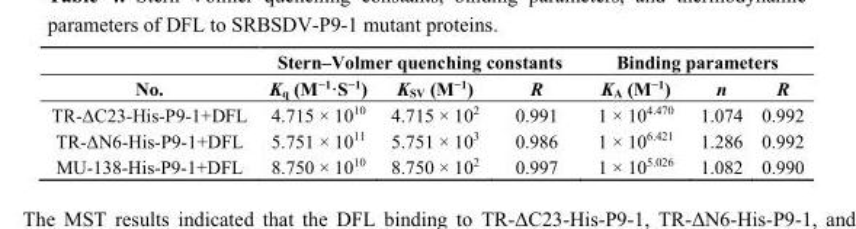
<table><thead><tr><td rowspan="2">No.</td><td colspan="3">Stern–Volmer quenching constants</td><td colspan="3">Binding parameters</td></tr><tr><td>K<sub>q</sub> (M<sup>−1</sup>·S<sup>−1</sup>)</td><td>K<sub>SV</sub> (M<sup>−1</sup>)</td><td>R</td><td>K<sub>A</sub> (M<sup>−1</sup>)</td><td>n</td><td>R</td></tr></thead><tbody><tr><td>TR-ΔC23-His-P9-1+DFL</td><td>4.715 × 10<sup>10</sup></td><td>4.715 × 10<sup>2</sup></td><td>0.991</td><td>1 × 10<sup>4.470</sup></td><td>1.074</td><td>0.992</td></tr><tr><td>TR-ΔN6-His-P9-1+DFL</td><td>5.751 × 10<sup>11</sup></td><td>5.751 × 10<sup>3</sup></td><td>0.986</td><td>1 × 10<sup>6.421</sup></td><td>1.286</td><td>0.992</td></tr><tr><td>MU-138-His-P9-1+DFL</td><td>8.750 × 10<sup>10</sup></td><td>8.750 × 10<sup>2</sup></td><td>0.997</td><td>1 × 10<sup>5.026</sup></td><td>1.082</td><td>0.990</td></tr></tbody></table>